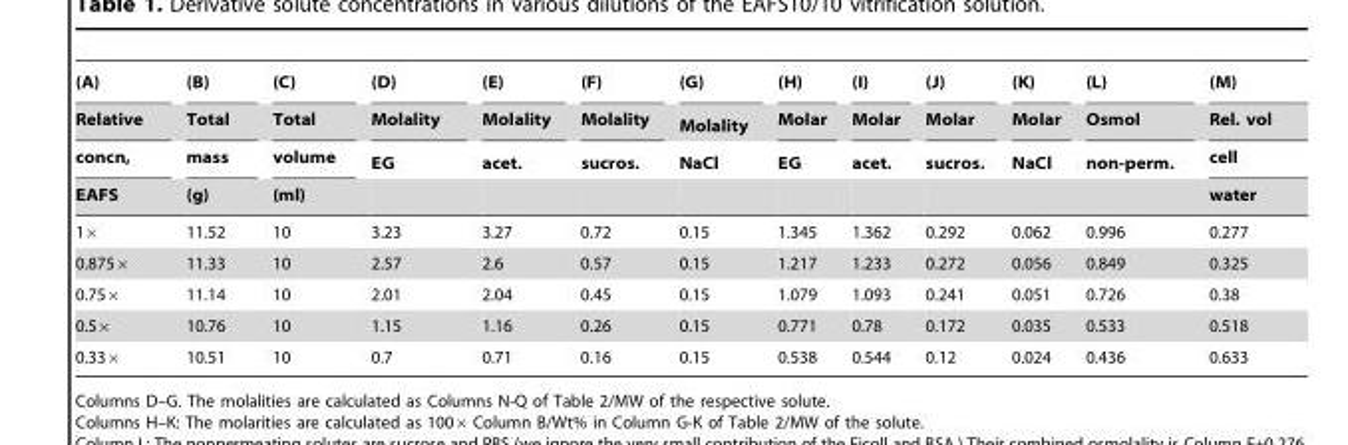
<table><thead><tr><td rowspan="4">(A) Relative concn, EAFS</td><td rowspan="4">(B) Total mass (g)</td><td rowspan="4">(C) Total volume (ml)</td><td rowspan="4">(D) Molality EG</td><td rowspan="4">(E) Molality acet.</td><td rowspan="4">(F) Molality sucros.</td><td rowspan="4">(G) Molality NaCl</td><td rowspan="4">(H) Molar EG</td><td rowspan="4">(I) Molar acet.</td><td rowspan="4">(J) Molar sucros.</td><td rowspan="4">(K) Molar NaCl</td><td rowspan="4">(L) Osmol non-perm.</td><td rowspan="4">(M) Rel. vol cell water</td></tr><tr></tr><tr></tr><tr></tr></thead><tbody><tr><td>1×</td><td>11.52</td><td>10</td><td>3.23</td><td>3.27</td><td>0.72</td><td>0.15</td><td>1.345</td><td>1.362</td><td>0.292</td><td>0.062</td><td>0.996</td><td>0.277</td></tr><tr><td>0.875×</td><td>11.33</td><td>10</td><td>2.57</td><td>2.6</td><td>0.57</td><td>0.15</td><td>1.217</td><td>1.233</td><td>0.272</td><td>0.056</td><td>0.849</td><td>0.325</td></tr><tr><td>0.75×</td><td>11.14</td><td>10</td><td>2.01</td><td>2.04</td><td>0.45</td><td>0.15</td><td>1.079</td><td>1.093</td><td>0.241</td><td>0.051</td><td>0.726</td><td>0.38</td></tr><tr><td>0.5×</td><td>10.76</td><td>10</td><td>1.15</td><td>1.16</td><td>0.26</td><td>0.15</td><td>0.771</td><td>0.78</td><td>0.172</td><td>0.035</td><td>0.533</td><td>0.518</td></tr><tr><td>0.33×</td><td>10.51</td><td>10</td><td>0.7</td><td>0.71</td><td>0.16</td><td>0.15</td><td>0.538</td><td>0.544</td><td>0.12</td><td>0.024</td><td>0.436</td><td>0.633</td></tr></tbody></table>